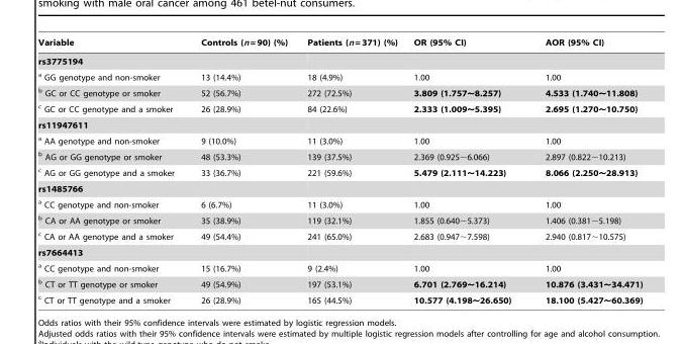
<table><thead><tr><td>Variable</td><td>Controls (n = 90) (%)</td><td>Patients (n = 371) (%)</td><td>OR (95% CI)</td><td>AOR (95% CI)</td></tr></thead><tbody><tr><td colspan="5">rs3775194</td></tr><tr><td>a GG genotype and non-smoker</td><td>13 (14.4%)</td><td>18 (4.9%)</td><td>1.00</td><td>1.00</td></tr><tr><td>b GC or CC genotype or smoker</td><td>52 (56.7%)</td><td>272 (72.5%)</td><td>3.809 (1.757∼8.257)</td><td>4.533 (1.740∼11.808)</td></tr><tr><td>c GC or CC genotype and a smoker</td><td>26 (28.9%)</td><td>84 (22.6%)</td><td>2.333 (1.009∼5.395)</td><td>2.695 (1.270∼10.750)</td></tr><tr><td colspan="5">rs11947611</td></tr><tr><td>a AA genotype and non-smoker</td><td>9 (10.0%)</td><td>11 (3.0%)</td><td>1.00</td><td>1.00</td></tr><tr><td>b AG or GG genotype or smoker</td><td>48 (53.3%)</td><td>139 (37.5%)</td><td>2.369 (0.925∼6.066)</td><td>2.897 (0.822∼10.213)</td></tr><tr><td>c AG or GG genotype and a smoker</td><td>33 (36.7%)</td><td>221 (59.6%)</td><td>5.479 (2.111∼14.223)</td><td>8.066 (2.250∼28.913)</td></tr><tr><td colspan="5">rs1485766</td></tr><tr><td>a CC genotype and non-smoker</td><td>6 (6.7%)</td><td>11 (3.0%)</td><td>1.00</td><td>1.00</td></tr><tr><td>b CA or AA genotype or smoker</td><td>35 (38.9%)</td><td>119 (32.1%)</td><td>1.855 (0.640∼5.373)</td><td>1.406 (0.381∼5.198)</td></tr><tr><td>c CA or AA genotype and a smoker</td><td>49 (54.4%)</td><td>241 (65.0%)</td><td>2.683 (0.947∼7.598)</td><td>2.940 (0.817∼10.575)</td></tr><tr><td colspan="5">rs7664413</td></tr><tr><td>a CC genotype and non-smoker</td><td>15 (16.7%)</td><td>9 (2.4%)</td><td>1.00</td><td>1.00</td></tr><tr><td>b CT or TT genotype or smoker</td><td>49 (54.9%)</td><td>197 (53.1%)</td><td>6.701 (2.769∼16.214)</td><td>10.876 (3.431∼34.471)</td></tr><tr><td>c CT or TT genotype and a smoker</td><td>26 (28.9%)</td><td>165 (44.5%)</td><td>10.577 (4.198∼26.650)</td><td>18.100 (5.427∼60.369)</td></tr></tbody></table>